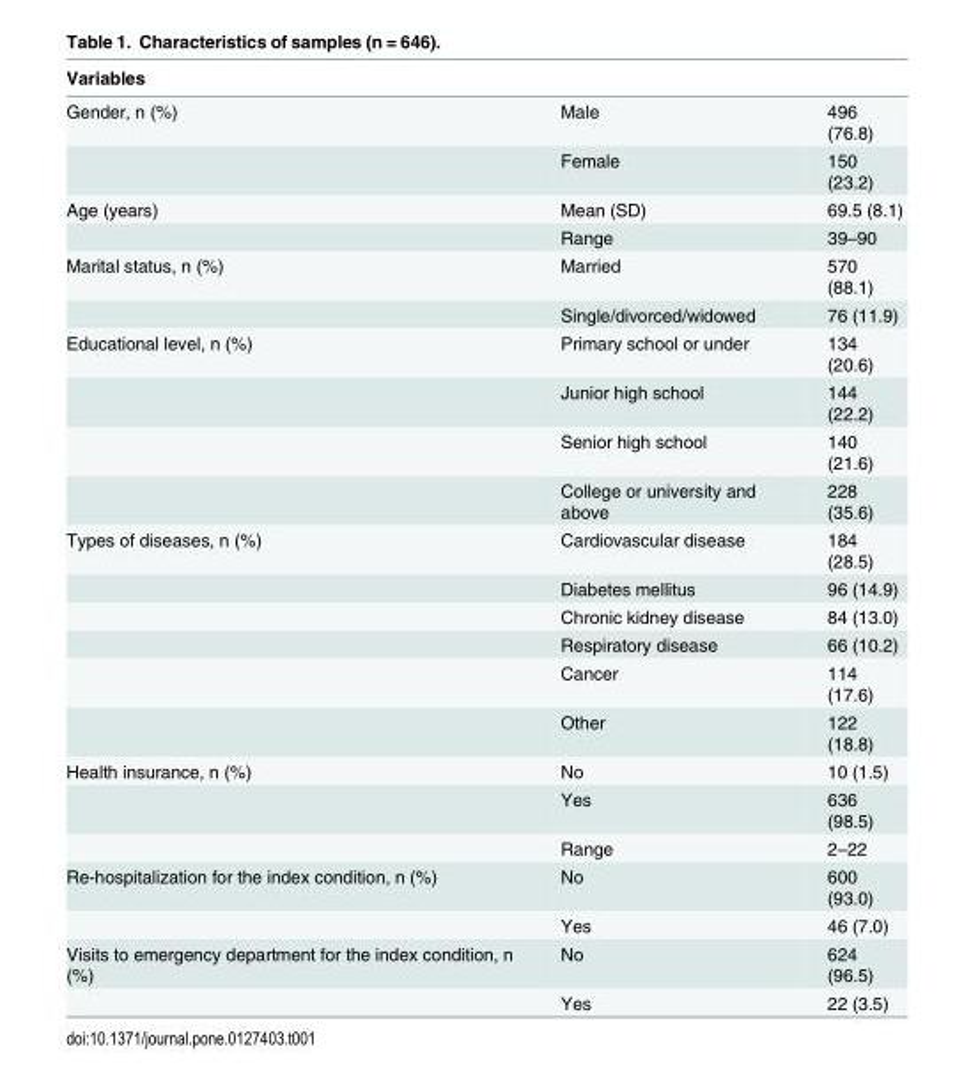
<table><thead><tr><td>Variables</td><td></td><td></td></tr></thead><tbody><tr><td rowspan="2">Gender, n (%)</td><td>Male</td><td>496 (76.8)</td></tr><tr><td>Female</td><td>150 (23.2)</td></tr><tr><td rowspan="2">Age (years)</td><td>Mean (SD)</td><td>69.5 (8.1)</td></tr><tr><td>Range</td><td>39–90</td></tr><tr><td rowspan="2">Marital status, n (%)</td><td>Married</td><td>570 (88.1)</td></tr><tr><td>Single/divorced/widowed</td><td>76 (11.9)</td></tr><tr><td rowspan="4">Educational level, n (%)</td><td>Primary school or under</td><td>134 (20.6)</td></tr><tr><td>Junior high school</td><td>144 (22.2)</td></tr><tr><td>Senior high school</td><td>140 (21.6)</td></tr><tr><td>College or university and above</td><td>228 (35.6)</td></tr><tr><td rowspan="6">Types of diseases, n (%)</td><td>Cardiovascular disease</td><td>184 (28.5)</td></tr><tr><td>Diabetes mellitus</td><td>96 (14.9)</td></tr><tr><td>Chronic kidney disease</td><td>84 (13.0)</td></tr><tr><td>Respiratory disease</td><td>66 (10.2)</td></tr><tr><td>Cancer</td><td>114 (17.6)</td></tr><tr><td>Other</td><td>122 (18.8)</td></tr><tr><td rowspan="3">Health insurance, n (%)</td><td>No</td><td>10 (1.5)</td></tr><tr><td>Yes</td><td>636 (98.5)</td></tr><tr><td>Range</td><td>2–22</td></tr><tr><td rowspan="2">Re-hospitalization for the index condition, n (%)</td><td>No</td><td>600 (93.0)</td></tr><tr><td>Yes</td><td>46 (7.0)</td></tr><tr><td rowspan="2">Visits to emergency department for the index condition, n (%)</td><td>No</td><td>624 (96.5)</td></tr><tr><td>Yes</td><td>22 (3.5)</td></tr></tbody></table>